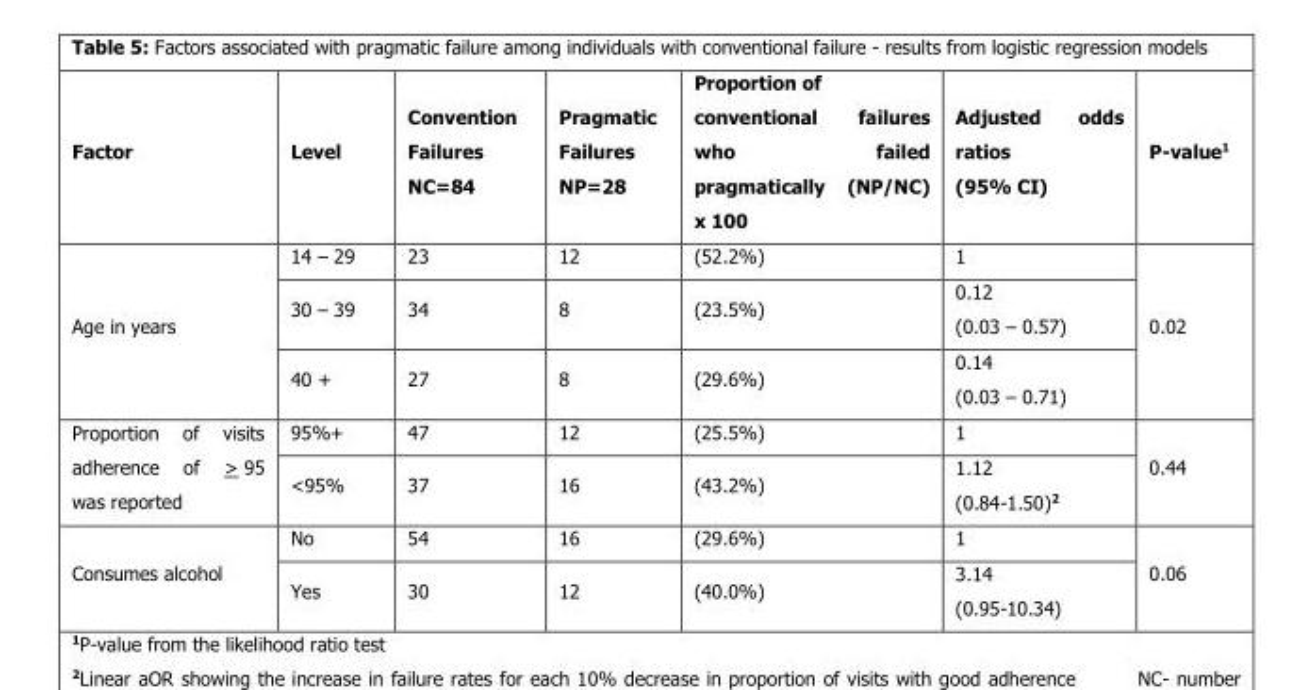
<table><thead><tr><td>Factor</td><td>Level</td><td>Convention Failures NC=84</td><td>Pragmatic Failures NP=28</td><td>Proportion of conventional failures who failed pragmatically (NP/NC) x 100</td><td>Adjusted odds ratios (95% CI)</td><td>P-value<sup>1</sup></td></tr></thead><tbody><tr><td rowspan="3">Age in years</td><td>14 – 29</td><td>23</td><td>12</td><td>(52.2%)</td><td>1</td><td rowspan="3">0.02</td></tr><tr><td>30 – 39</td><td>34</td><td>8</td><td>(23.5%)</td><td>0.12 (0.03 – 0.57)</td></tr><tr><td>40 +</td><td>27</td><td>8</td><td>(29.6%)</td><td>0.14 (0.03 – 0.71)</td></tr><tr><td rowspan="2">Proportion of visits adherence of &gt; 95 was reported</td><td>95%+</td><td>47</td><td>12</td><td>(25.5%)</td><td>1</td><td rowspan="2">0.44</td></tr><tr><td>&lt;95%</td><td>37</td><td>16</td><td>(43.2%)</td><td>1.12 (0.84-1.50)<sup>2</sup></td></tr><tr><td rowspan="2">Consumes alcohol</td><td>No</td><td>54</td><td>16</td><td>(29.6%)</td><td>1</td><td rowspan="2">0.06</td></tr><tr><td>Yes</td><td>30</td><td>12</td><td>(40.0%)</td><td>3.14 (0.95-10.34)</td></tr></tbody></table>